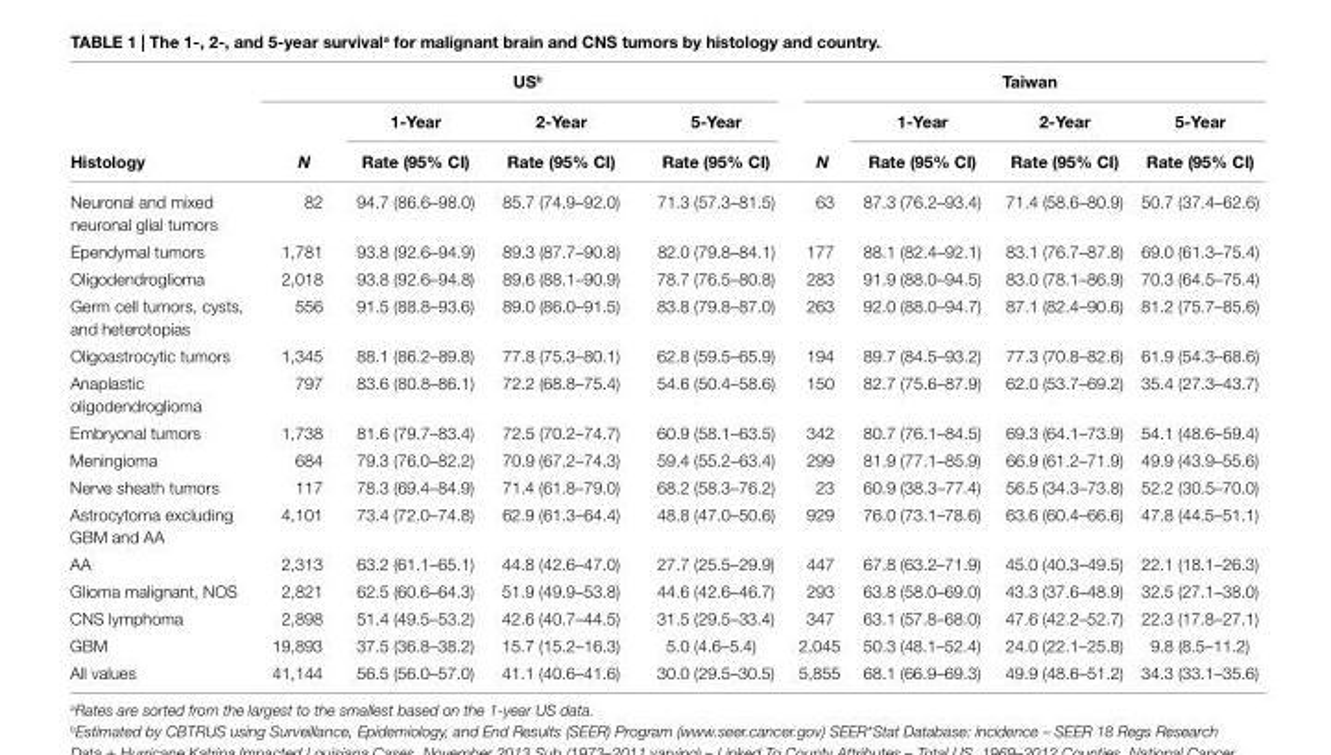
<table><thead><tr><td rowspan="3">histology</td><td colspan="4">Us<sup>b</sup></td><td colspan="4">Taiwan</td></tr><tr><td rowspan="2">N</td><td rowspan="2">1-Year rate (95% ci)</td><td rowspan="2">2-Year rate (95% ci)</td><td rowspan="2">5-Year rate (95% ci)</td><td rowspan="2">N</td><td rowspan="2">1-Year rate (95% ci)</td><td rowspan="2">2-Year rate (95% ci)</td><td rowspan="2">5-Year rate (95% ci)</td></tr><tr></tr></thead><tbody><tr><td>Neuronal and mixed neuronal glial tumors</td><td>82</td><td>94.7 (86.6–98.0)</td><td>85.7 (74.9–92.0)</td><td>71.3 (57.3–81.5)</td><td>63</td><td>87.3 (76.2–93.4)</td><td>71.4 (58.6–80.9)</td><td>50.7 (37.4–62.6)</td></tr><tr><td>Ependymal tumors</td><td>1,781</td><td>93.8 (92.6–94.9)</td><td>89.3 (87.7–90.8)</td><td>82.0 (79.8–84.1)</td><td>177</td><td>88.1 (82.4–92.1)</td><td>83.1 (76.7–87.8)</td><td>69.0 (61.3–75.4)</td></tr><tr><td>Oligodendroglioma</td><td>2,018</td><td>93.8 (92.6–94.8)</td><td>89.6 (88.1–90.9)</td><td>78.7 (76.5–80.8)</td><td>283</td><td>91.9 (88.0–94.5)</td><td>83.0 (78.1–86.9)</td><td>70.3 (64.5–75.4)</td></tr><tr><td>Germ cell tumors, cysts, and heterotopias</td><td>556</td><td>91.5 (88.8–93.6)</td><td>89.0 (86.0–91.5)</td><td>83.8 (79.8–87.0)</td><td>263</td><td>92.0 (88.0–94.7)</td><td>87.1 (82.4–90.6)</td><td>81.2 (75.7–85.6)</td></tr><tr><td>Oligoastrocytic tumors</td><td>1,345</td><td>88.1 (86.2–89.8)</td><td>77.8 (75.3–80.1)</td><td>62.8 (59.5–65.9)</td><td>194</td><td>89.7 (84.5–93.2)</td><td>77.3 (70.8–82.6)</td><td>61.9 (54.3–68.6)</td></tr><tr><td>Anaplastic oligodendroglioma</td><td>797</td><td>83.6 (80.8–86.1)</td><td>72.2 (68.8–75.4)</td><td>54.6 (50.4–58.6)</td><td>150</td><td>82.7 (75.6–87.9)</td><td>62.0 (53.7–69.2)</td><td>35.4 (27.3–43.7)</td></tr><tr><td>Embryonal tumors</td><td>1,738</td><td>81.6 (79.7–83.4)</td><td>72.5 (70.2–74.7)</td><td>60.9 (58.1–63.5)</td><td>342</td><td>80.7 (76.1–84.5)</td><td>69.3 (64.1–73.9)</td><td>54.1 (48.6–59.4)</td></tr><tr><td>Meningioma</td><td>684</td><td>79.3 (76.0–82.2)</td><td>70.9 (67.2–74.3)</td><td>59.4 (55.2–63.4)</td><td>299</td><td>81.9 (77.1–85.9)</td><td>66.9 (61.2–71.9)</td><td>49.9 (43.9–55.6)</td></tr><tr><td>Nerve sheath tumors</td><td>117</td><td>78.3 (69.4–84.9)</td><td>71.4 (61.8–79.0)</td><td>68.2 (58.3–76.2)</td><td>23</td><td>60.9 (38.3–77.4)</td><td>56.5 (34.3–73.8)</td><td>52.2 (30.5–70.0)</td></tr><tr><td>Astrocytoma excluding GBM and AA</td><td>4,101</td><td>73.4 (72.0–74.8)</td><td>62.9 (61.3–64.4)</td><td>48.8 (47.0–50.6)</td><td>929</td><td>76.0 (73.1–78.6)</td><td>63.6 (60.4–66.6)</td><td>47.8 (44.5–51.1)</td></tr><tr><td>AA</td><td>2,313</td><td>63.2 (61.1–65.1)</td><td>44.8 (42.6–47.0)</td><td>27.7 (25.5–29.9)</td><td>447</td><td>67.8 (63.2–71.9)</td><td>45.0 (40.3–49.5)</td><td>22.1 (18.1–26.3)</td></tr><tr><td>Glioma malignant, NOS</td><td>2,821</td><td>62.5 (60.6–64.3)</td><td>51.9 (49.9–53.8)</td><td>44.6 (42.6–46.7)</td><td>293</td><td>63.8 (58.0–69.0)</td><td>43.3 (37.6–48.9)</td><td>32.5 (27.1–38.0)</td></tr><tr><td>CNS lymphoma</td><td>2,898</td><td>51.4 (49.5–53.2)</td><td>42.6 (40.7–44.5)</td><td>31.5 (29.5–33.4)</td><td>347</td><td>63.1 (57.8–68.0)</td><td>47.6 (42.2–52.7)</td><td>22.3 (17.8–27.1)</td></tr><tr><td>GBM</td><td>19,893</td><td>37.5 (36.8–38.2)</td><td>15.7 (15.2–16.3)</td><td>5.0 (4.6–5.4)</td><td>2,045</td><td>50.3 (48.1–52.4)</td><td>24.0 (22.1–25.8)</td><td>9.8 (8.5–11.2)</td></tr><tr><td>All values</td><td>41,144</td><td>56.5 (56.0–57.0)</td><td>41.1 (40.6–41.6)</td><td>30.0 (29.5–30.5)</td><td>5,855</td><td>68.1 (66.9–69.3)</td><td>49.9 (48.6–51.2)</td><td>34.3 (33.1–35.6)</td></tr></tbody></table>